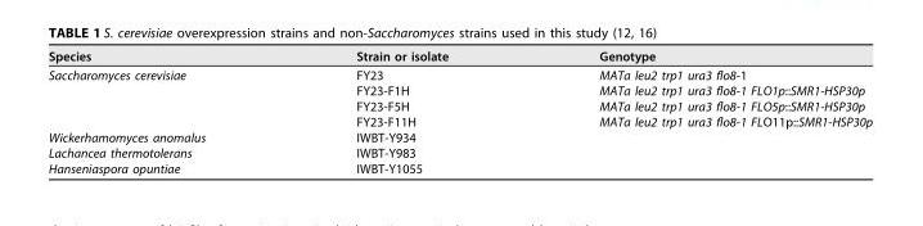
<table><thead><tr><td>Species</td><td>Strain or isolate</td><td>Genotype</td></tr></thead><tbody><tr><td rowspan="4">Saccharomyces cerevisiae</td><td>FY23</td><td>MATa leu2 trp1 ura3 flo8-1</td></tr><tr><td>FY23-F1H</td><td>MATa leu2 trp1 ura3 flo8-1 FLO1p::SMR1-HSP30p</td></tr><tr><td>FY23-F5H</td><td>MATa leu2 trp1 ura3 flo8-1 FLO5p::SMR1-HSP30p</td></tr><tr><td>FY23-F11H</td><td>MATa leu2 trp1 ura3 flo8-1 FLO11p::SMR1-HSP30p</td></tr><tr><td>Wickerhamomyces anomalus</td><td>IWBT-Y934</td><td></td></tr><tr><td>Lachancea thermotolerans</td><td>IWBT-Y983</td><td></td></tr><tr><td>Hanseniaspora opuntiae</td><td>IWBT-Y1055</td><td></td></tr></tbody></table>